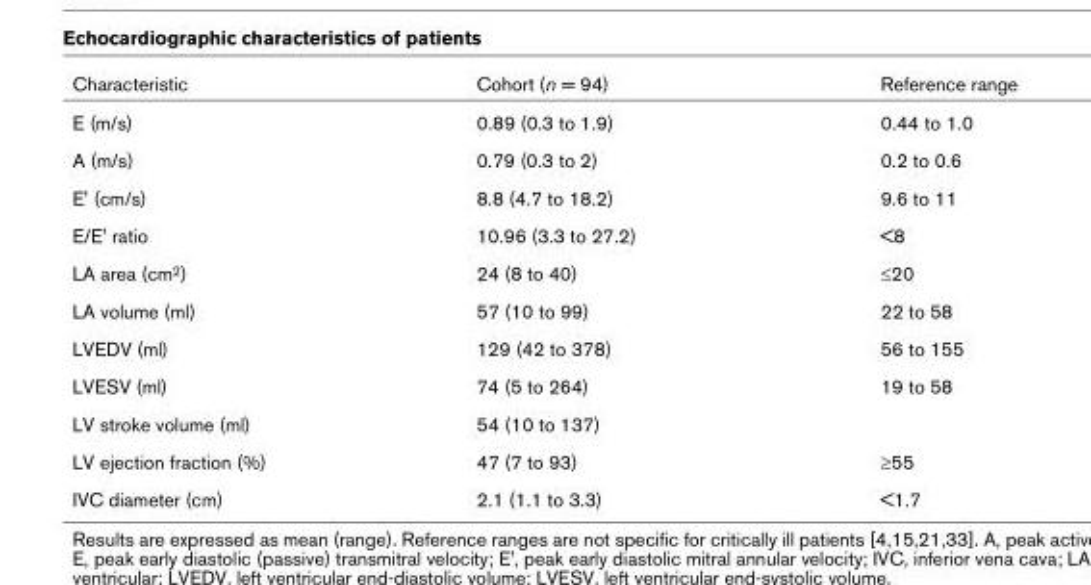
<table><thead><tr><td>Characteristic</td><td>Cohort (n = 94)</td><td>Reference range</td></tr></thead><tbody><tr><td>E (m/s)</td><td>0.89 (0.3 to 1.9)</td><td>0.44 to 1.0</td></tr><tr><td>A (m/s)</td><td>0.79 (0.3 to 2)</td><td>0.2 to 0.6</td></tr><tr><td>E&#x27; (cm/s)</td><td>8.8 (4.7 to 18.2)</td><td>9.6 to 11</td></tr><tr><td>E/E&#x27; ratio</td><td>10.96 (3.3 to 27.2)</td><td>&lt;8</td></tr><tr><td>LA area (cm<sup>2</sup>)</td><td>24 (8 to 40)</td><td>≤20</td></tr><tr><td>LA volume (ml)</td><td>57 (10 to 99)</td><td>22 to 58</td></tr><tr><td>LVEDV (ml)</td><td>129 (42 to 378)</td><td>56 to 155</td></tr><tr><td>LVESV (ml)</td><td>74 (5 to 264)</td><td>19 to 58</td></tr><tr><td>LV stroke volume (ml)</td><td>54 (10 to 137)</td><td></td></tr><tr><td>LV ejection fraction (%)</td><td>47 (7 to 93)</td><td>≥55</td></tr><tr><td>IVC diameter (cm)</td><td>2.1 (1.1 to 3.3)</td><td>&lt;1.7</td></tr></tbody></table>